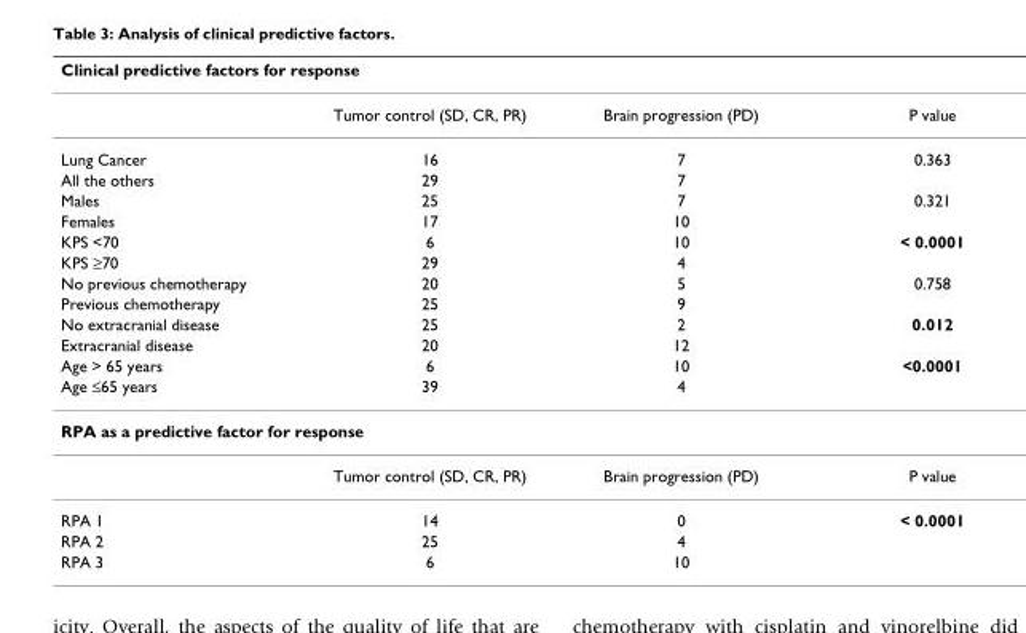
<table><thead><tr><td colspan="4">Clinical predictive factors for response</td></tr><tr><td></td><td>Tumor control (SD, CR, PR)</td><td>Brain progression (PD)</td><td>P value</td></tr></thead><tbody><tr><td>Lung Cancer</td><td>16</td><td>7</td><td>0.363</td></tr><tr><td>All the others</td><td>29</td><td>7</td><td></td></tr><tr><td>Males</td><td>25</td><td>7</td><td>0.321</td></tr><tr><td>Females</td><td>17</td><td>10</td><td></td></tr><tr><td>KPS &lt;70</td><td>6</td><td>10</td><td>&lt; 0.0001</td></tr><tr><td>KPS ≥70</td><td>29</td><td>4</td><td></td></tr><tr><td>No previous chemotherapy</td><td>20</td><td>5</td><td>0.758</td></tr><tr><td>Previous chemotherapy</td><td>25</td><td>9</td><td></td></tr><tr><td>No extracranial disease</td><td>25</td><td>2</td><td>0.012</td></tr><tr><td>Extracranial disease</td><td>20</td><td>12</td><td></td></tr><tr><td>Age &gt; 65 years</td><td>6</td><td>10</td><td>&lt;0.0001</td></tr><tr><td>Age ≤65 years</td><td>39</td><td>4</td><td></td></tr><tr><td colspan="4">RPA as a predictive factor for response</td></tr><tr><td></td><td>Tumor control (SD, CR, PR)</td><td>Brain progression (PD)</td><td>P value</td></tr><tr><td>RPA 1</td><td>14</td><td>0</td><td>&lt; 0.0001</td></tr><tr><td>RPA 2</td><td>25</td><td>4</td><td></td></tr><tr><td>RPA 3</td><td>6</td><td>10</td><td></td></tr></tbody></table>